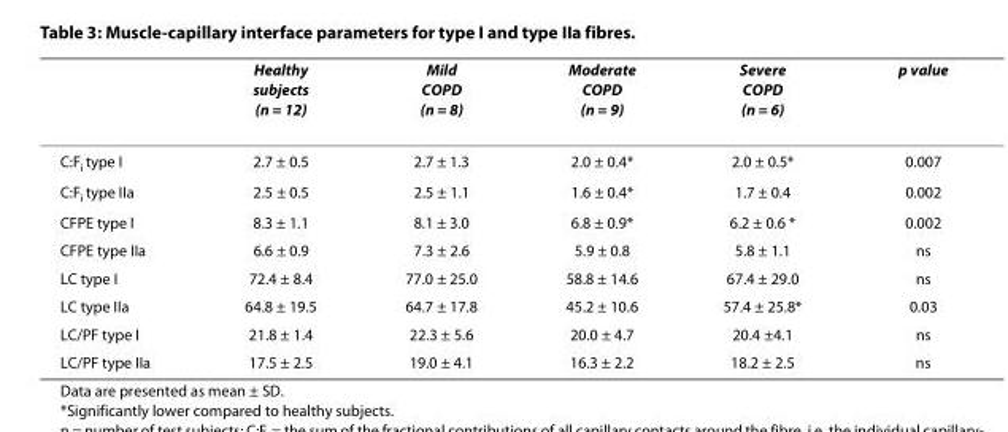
<table><thead><tr><td></td><td>Healthy subjects (n = 12)</td><td>Mild COPD (n = 8)</td><td>Moderate COPD (n = 9)</td><td>Severe COPD (n = 6)</td><td>p value</td></tr></thead><tbody><tr><td>C:F<sub>i</sub> type I</td><td>2.7 ± 0.5</td><td>2.7 ± 1.3</td><td>2.0 ± 0.4*</td><td>2.0 ± 0.5*</td><td>0.007</td></tr><tr><td>C:F<sub>i</sub> type IIa</td><td>2.5 ± 0.5</td><td>2.5 ± 1.1</td><td>1.6 ± 0.4*</td><td>1.7 ± 0.4</td><td>0.002</td></tr><tr><td>CFPE type I</td><td>8.3 ± 1.1</td><td>8.1 ± 3.0</td><td>6.8 ± 0.9*</td><td>6.2 ± 0.6 *</td><td>0.002</td></tr><tr><td>CFPE type IIa</td><td>6.6 ± 0.9</td><td>7.3 ± 2.6</td><td>5.9 ± 0.8</td><td>5.8 ± 1.1</td><td>ns</td></tr><tr><td>LC type I</td><td>72.4 ± 8.4</td><td>77.0 ± 25.0</td><td>58.8 ± 14.6</td><td>67.4 ± 29.0</td><td>ns</td></tr><tr><td>LC type IIa</td><td>64.8 ± 19.5</td><td>64.7 ± 17.8</td><td>45.2 ± 10.6</td><td>57.4 ± 25.8*</td><td>0.03</td></tr><tr><td>LC/PF type I</td><td>21.8 ± 1.4</td><td>22.3 ± 5.6</td><td>20.0 ± 4.7</td><td>20.4 ±4.1</td><td>ns</td></tr><tr><td>LC/PF type IIa</td><td>17.5 ± 2.5</td><td>19.0 ± 4.1</td><td>16.3 ± 2.2</td><td>18.2 ± 2.5</td><td>ns</td></tr></tbody></table>